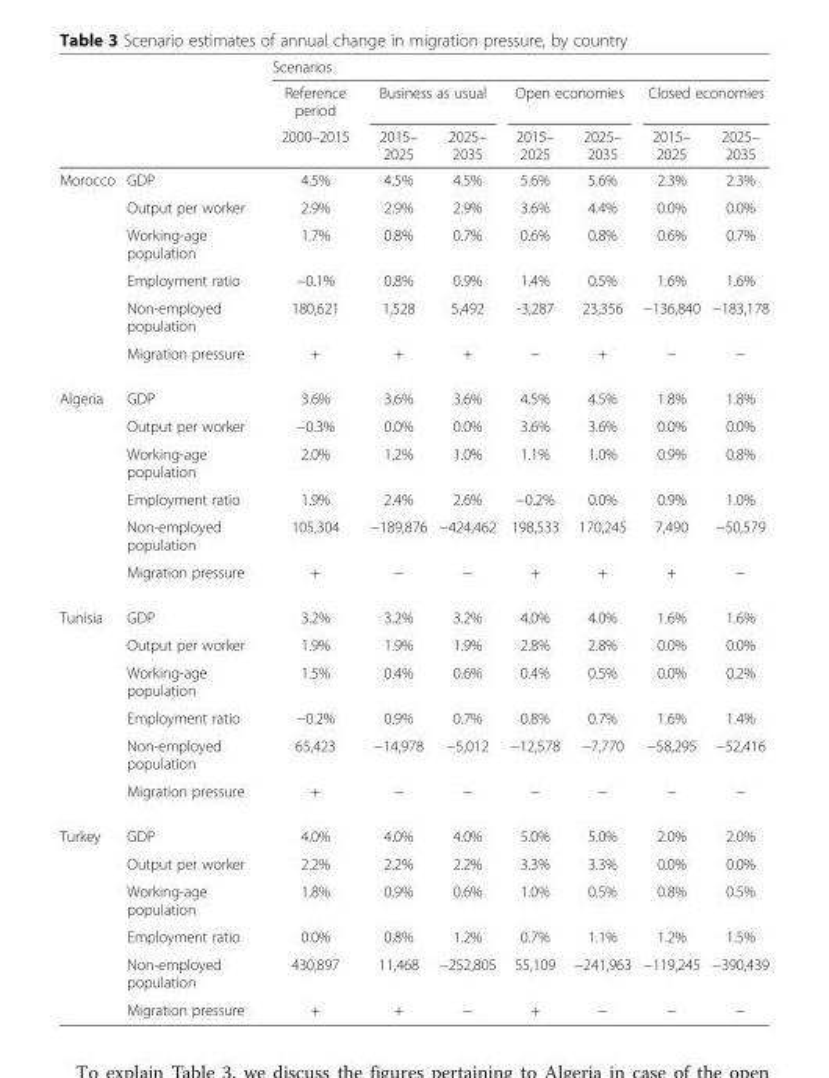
<table><thead><tr><td rowspan="3"></td><td rowspan="3"></td><td colspan="7">Scenarios</td></tr><tr><td rowspan="2">Reference period 2000–2015</td><td colspan="2">Business as usual</td><td colspan="2">Open economies</td><td colspan="2">Closed economies</td></tr><tr><td>2015– 2025</td><td>2025– 2035</td><td>2015– 2025</td><td>2025– 2035</td><td>2015– 2025</td><td>2025– 2035</td></tr></thead><tbody><tr><td rowspan="6">Morocco</td><td>GDP</td><td>4.5%</td><td>4.5%</td><td>4.5%</td><td>5.6%</td><td>5.6%</td><td>2.3%</td><td>2.3%</td></tr><tr><td>Output per worker</td><td>2.9%</td><td>2.9%</td><td>2.9%</td><td>3.6%</td><td>4.4%</td><td>0.0%</td><td>0.0%</td></tr><tr><td>Working-age population</td><td>1.7%</td><td>0.8%</td><td>0.7%</td><td>0.6%</td><td>0.8%</td><td>0.6%</td><td>0.7%</td></tr><tr><td>Employment ratio</td><td>−0.1%</td><td>0.8%</td><td>0.9%</td><td>1.4%</td><td>0.5%</td><td>1.6%</td><td>1.6%</td></tr><tr><td>Non-employed population</td><td>180,621</td><td>1,528</td><td>5,492</td><td>-3,287</td><td>23,356</td><td>−136,840</td><td>−183,178</td></tr><tr><td>Migration pressure</td><td>+</td><td>+</td><td>+</td><td>−</td><td>+</td><td>−</td><td>−</td></tr><tr><td rowspan="6">Algeria</td><td>GDP</td><td>3.6%</td><td>3.6%</td><td>3.6%</td><td>4.5%</td><td>4.5%</td><td>1.8%</td><td>1.8%</td></tr><tr><td>Output per worker</td><td>−0.3%</td><td>0.0%</td><td>0.0%</td><td>3.6%</td><td>3.6%</td><td>0.0%</td><td>0.0%</td></tr><tr><td>Working-age population</td><td>2.0%</td><td>1.2%</td><td>1.0%</td><td>1.1%</td><td>1.0%</td><td>0.9%</td><td>0.8%</td></tr><tr><td>Employment ratio</td><td>1.9%</td><td>2.4%</td><td>2.6%</td><td>−0.2%</td><td>0.0%</td><td>0.9%</td><td>1.0%</td></tr><tr><td>Non-employed population</td><td>105,304</td><td>−189,876</td><td>−424,462</td><td>198,533</td><td>170,245</td><td>7,490</td><td>−50,579</td></tr><tr><td>Migration pressure</td><td>+</td><td>−</td><td>−</td><td>+</td><td>+</td><td>+</td><td>−</td></tr><tr><td rowspan="6">Tunisia</td><td>GDP</td><td>3.2%</td><td>3.2%</td><td>3.2%</td><td>4.0%</td><td>4.0%</td><td>1.6%</td><td>1.6%</td></tr><tr><td>Output per worker</td><td>1.9%</td><td>1.9%</td><td>1.9%</td><td>2.8%</td><td>2.8%</td><td>0.0%</td><td>0.0%</td></tr><tr><td>Working-age population</td><td>1.5%</td><td>0.4%</td><td>0.6%</td><td>0.4%</td><td>0.5%</td><td>0.0%</td><td>0.2%</td></tr><tr><td>Employment ratio</td><td>−0.2%</td><td>0.9%</td><td>0.7%</td><td>0.8%</td><td>0.7%</td><td>1.6%</td><td>1.4%</td></tr><tr><td>Non-employed population</td><td>65,423</td><td>−14,978</td><td>−5,012</td><td>−12,578</td><td>−7,770</td><td>−58,295</td><td>−52,416</td></tr><tr><td>Migration pressure</td><td>+</td><td>−</td><td>−</td><td>−</td><td>−</td><td>−</td><td>−</td></tr><tr><td rowspan="6">Turkey</td><td>GDP</td><td>4.0%</td><td>4.0%</td><td>4.0%</td><td>5.0%</td><td>5.0%</td><td>2.0%</td><td>2.0%</td></tr><tr><td>Output per worker</td><td>2.2%</td><td>2.2%</td><td>2.2%</td><td>3.3%</td><td>3.3%</td><td>0.0%</td><td>0.0%</td></tr><tr><td>Working-age population</td><td>1.8%</td><td>0.9%</td><td>0.6%</td><td>1.0%</td><td>0.5%</td><td>0.8%</td><td>0.5%</td></tr><tr><td>Employment ratio</td><td>0.0%</td><td>0.8%</td><td>1.2%</td><td>0.7%</td><td>1.1%</td><td>1.2%</td><td>1.5%</td></tr><tr><td>Non-employed population</td><td>430,897</td><td>11,468</td><td>−252,805</td><td>55,109</td><td>−241,963</td><td>−119,245</td><td>−390,439</td></tr><tr><td>Migration pressure</td><td>+</td><td>+</td><td>−</td><td>+</td><td>−</td><td>−</td><td>−</td></tr></tbody></table>